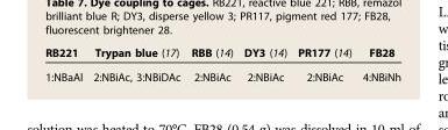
<table><thead><tr><td rowspan="2">RB221 1:NBaAl</td><td colspan="2">Trypan blue (17)</td><td rowspan="2">RBB (14) 2:NBiAc</td><td rowspan="2">DY3 (14) 2:NBiAc</td><td rowspan="2">PR177 (14) 2:NBiAc</td><td rowspan="2">FB28 4:NBiNh</td></tr><tr><td>2:NBiAc,</td><td>3:NBiDAc</td></tr></thead><tbody></tbody></table>